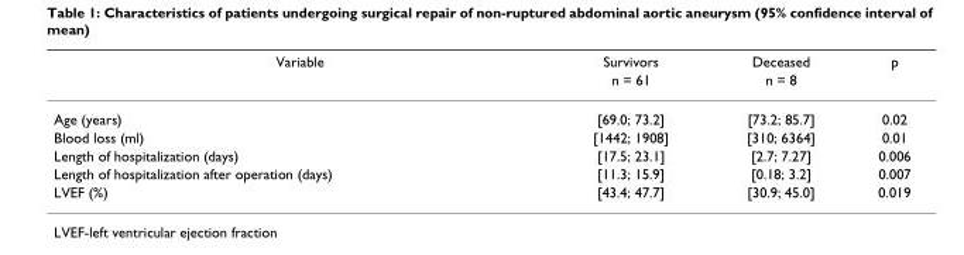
<table><thead><tr><td rowspan="2">Variable</td><td rowspan="2">Survivors n = 61</td><td rowspan="2">Deceased n = 8</td><td rowspan="2">p</td></tr><tr></tr></thead><tbody><tr><td>Age (years)</td><td>[69.0; 73.2]</td><td>[73.2; 85.7]</td><td>0.02</td></tr><tr><td>Blood loss (ml)</td><td>[1442; 1908]</td><td>[310; 6364]</td><td>0.01</td></tr><tr><td>Length of hospitalization (days)</td><td>[17.5; 23.1]</td><td>[2.7; 7.27]</td><td>0.006</td></tr><tr><td>Length of hospitalization after operation (days)</td><td>[11.3; 15.9]</td><td>[0.18; 3.2]</td><td>0.007</td></tr><tr><td>LVEF (%)</td><td>[43.4; 47.7]</td><td>[30.9; 45.0]</td><td>0.019</td></tr></tbody></table>